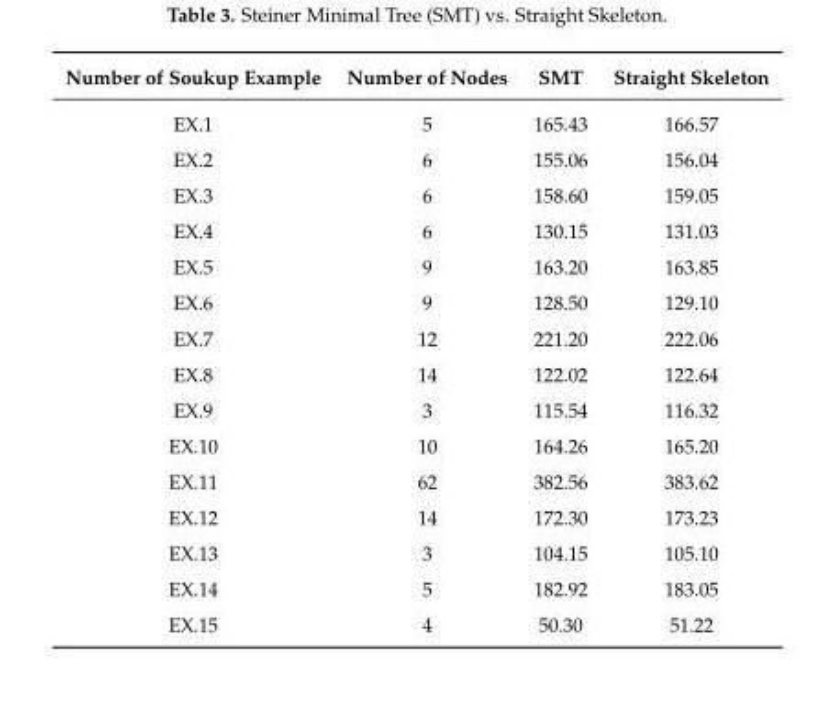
<table><thead><tr><td>Number of Soukup Example</td><td>Number of Nodes</td><td>SMT</td><td>Straight Skeleton</td></tr></thead><tbody><tr><td>EX.1</td><td>5</td><td>165.43</td><td>166.57</td></tr><tr><td>EX.2</td><td>6</td><td>155.06</td><td>156.04</td></tr><tr><td>EX.3</td><td>6</td><td>158.60</td><td>159.05</td></tr><tr><td>EX.4</td><td>6</td><td>130.15</td><td>131.03</td></tr><tr><td>EX.5</td><td>9</td><td>163.20</td><td>163.85</td></tr><tr><td>EX.6</td><td>9</td><td>128.50</td><td>129.10</td></tr><tr><td>EX.7</td><td>12</td><td>221.20</td><td>222.06</td></tr><tr><td>EX.8</td><td>14</td><td>122.02</td><td>122.64</td></tr><tr><td>EX.9</td><td>3</td><td>115.54</td><td>116.32</td></tr><tr><td>EX.10</td><td>10</td><td>164.26</td><td>165.20</td></tr><tr><td>EX.11</td><td>62</td><td>382.56</td><td>383.62</td></tr><tr><td>EX.12</td><td>14</td><td>172.30</td><td>173.23</td></tr><tr><td>EX.13</td><td>3</td><td>104.15</td><td>105.10</td></tr><tr><td>EX.14</td><td>5</td><td>182.92</td><td>183.05</td></tr><tr><td>EX.15</td><td>4</td><td>50.30</td><td>51.22</td></tr></tbody></table>